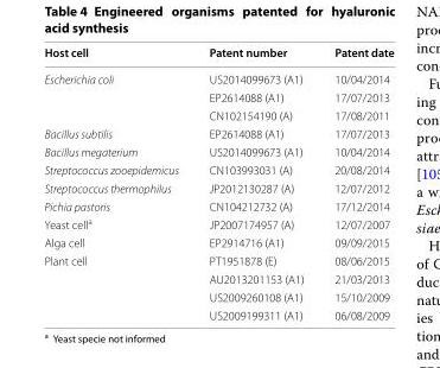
<table><thead><tr><td>Host cell</td><td>Patent number</td><td>Patent date</td></tr></thead><tbody><tr><td rowspan="3">Escherichia coli</td><td>US2014099673 (A1)</td><td>10/04/2014</td></tr><tr><td>EP2614088 (A1)</td><td>17/07/2013</td></tr><tr><td>CN102154190 (A)</td><td>17/08/2011</td></tr><tr><td>Bacillus subtilis</td><td>EP2614088 (A1)</td><td>17/07/2013</td></tr><tr><td>Bacillus megaterium</td><td>US2014099673 (A1)</td><td>10/04/2014</td></tr><tr><td>Streptococcus zooepidemicus</td><td>CN103993031 (A)</td><td>20/08/2014</td></tr><tr><td>Streptococcus thermophilus</td><td>JP2012130287 (A)</td><td>12/07/2012</td></tr><tr><td>Pichia pastoris</td><td>CN104212732 (A)</td><td>17/12/2014</td></tr><tr><td>Yeast cell<sup>a</sup></td><td>JP2007174957 (A)</td><td>12/07/2007</td></tr><tr><td>Alga cell</td><td>EP2914716 (A1)</td><td>09/09/2015</td></tr><tr><td rowspan="4">Plant cell</td><td>PT1951878 (E)</td><td>08/06/2015</td></tr><tr><td>AU2013201153 (A1)</td><td>21/03/2013</td></tr><tr><td>US2009260108 (A1)</td><td>15/10/2009</td></tr><tr><td>US2009199311 (A1)</td><td>06/08/2009</td></tr></tbody></table>